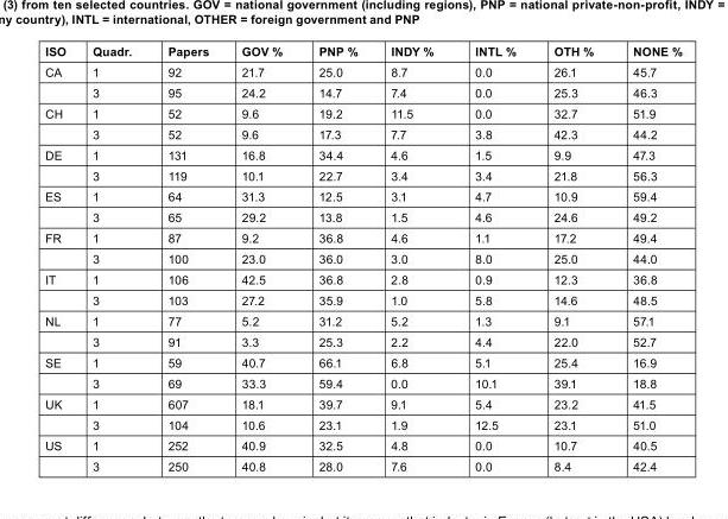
<table><thead><tr><td>ISO</td><td>Quadr.</td><td>Papers</td><td>GOV %</td><td>PNP %</td><td>INDY %</td><td>INTL %</td><td>OTH %</td><td>NONE %</td></tr></thead><tbody><tr><td rowspan="2">CA</td><td>1</td><td>92</td><td>21.7</td><td>25.0</td><td>8.7</td><td>0.0</td><td>26.1</td><td>45.7</td></tr><tr><td>3</td><td>95</td><td>24.2</td><td>14.7</td><td>7.4</td><td>0.0</td><td>25.3</td><td>46.3</td></tr><tr><td rowspan="2">CH</td><td>1</td><td>52</td><td>9.6</td><td>19.2</td><td>11.5</td><td>0.0</td><td>32.7</td><td>51.9</td></tr><tr><td>3</td><td>52</td><td>9.6</td><td>17.3</td><td>7.7</td><td>3.8</td><td>42.3</td><td>44.2</td></tr><tr><td rowspan="2">DE</td><td>1</td><td>131</td><td>16.8</td><td>34.4</td><td>4.6</td><td>1.5</td><td>9.9</td><td>47.3</td></tr><tr><td>3</td><td>119</td><td>10.1</td><td>22.7</td><td>3.4</td><td>3.4</td><td>21.8</td><td>56.3</td></tr><tr><td rowspan="2">ES</td><td>1</td><td>64</td><td>31.3</td><td>12.5</td><td>3.1</td><td>4.7</td><td>10.9</td><td>59.4</td></tr><tr><td>3</td><td>65</td><td>29.2</td><td>13.8</td><td>1.5</td><td>4.6</td><td>24.6</td><td>49.2</td></tr><tr><td rowspan="2">FR</td><td>1</td><td>87</td><td>9.2</td><td>36.8</td><td>4.6</td><td>1.1</td><td>17.2</td><td>49.4</td></tr><tr><td>3</td><td>100</td><td>23.0</td><td>36.0</td><td>3.0</td><td>8.0</td><td>25.0</td><td>44.0</td></tr><tr><td rowspan="2">IT</td><td>1</td><td>106</td><td>42.5</td><td>36.8</td><td>2.8</td><td>0.9</td><td>12.3</td><td>36.8</td></tr><tr><td>3</td><td>103</td><td>27.2</td><td>35.9</td><td>1.0</td><td>5.8</td><td>14.6</td><td>48.5</td></tr><tr><td rowspan="2">NL</td><td>1</td><td>77</td><td>5.2</td><td>31.2</td><td>5.2</td><td>1.3</td><td>9.1</td><td>57.1</td></tr><tr><td>3</td><td>91</td><td>3.3</td><td>25.3</td><td>2.2</td><td>4.4</td><td>22.0</td><td>52.7</td></tr><tr><td rowspan="2">SE</td><td>1</td><td>59</td><td>40.7</td><td>66.1</td><td>6.8</td><td>5.1</td><td>25.4</td><td>16.9</td></tr><tr><td>3</td><td>69</td><td>33.3</td><td>59.4</td><td>0.0</td><td>10.1</td><td>39.1</td><td>18.8</td></tr><tr><td rowspan="2">UK</td><td>1</td><td>607</td><td>18.1</td><td>39.7</td><td>9.1</td><td>5.4</td><td>23.2</td><td>41.5</td></tr><tr><td>3</td><td>104</td><td>10.6</td><td>23.1</td><td>1.9</td><td>12.5</td><td>23.1</td><td>51.0</td></tr><tr><td rowspan="2">US</td><td>1</td><td>252</td><td>40.9</td><td>32.5</td><td>4.8</td><td>0.0</td><td>10.7</td><td>40.5</td></tr><tr><td>3</td><td>250</td><td>40.8</td><td>28.0</td><td>7.6</td><td>0.0</td><td>8.4</td><td>42.4</td></tr></tbody></table>